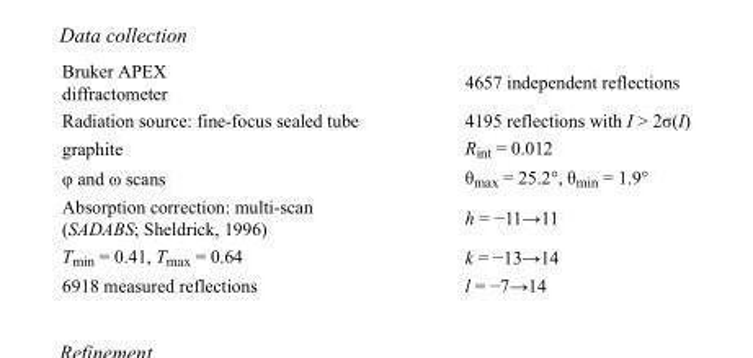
<table><tbody><tr><td>Bruker APEX diffractometer</td><td>4657 independent reflections</td></tr><tr><td>Radiation source: fine-focus sealed tube</td><td>4195 reflections with I &gt; 2σ(I)</td></tr><tr><td>graphite</td><td>R<sub>int</sub> = 0.012</td></tr><tr><td>φ and ω scans</td><td>θ<sub>max</sub> = 25.2°, θ<sub>min</sub> = 1.9°</td></tr><tr><td>Absorption correction: multi-scan (SADABS; Sheldrick, 1996)</td><td>h = −11→11</td></tr><tr><td>T<sub>min</sub> = 0.41, T<sub>max</sub> = 0.64</td><td>k = −13→14</td></tr><tr><td>6918 measured reflections</td><td>l = −7→14</td></tr></tbody></table>